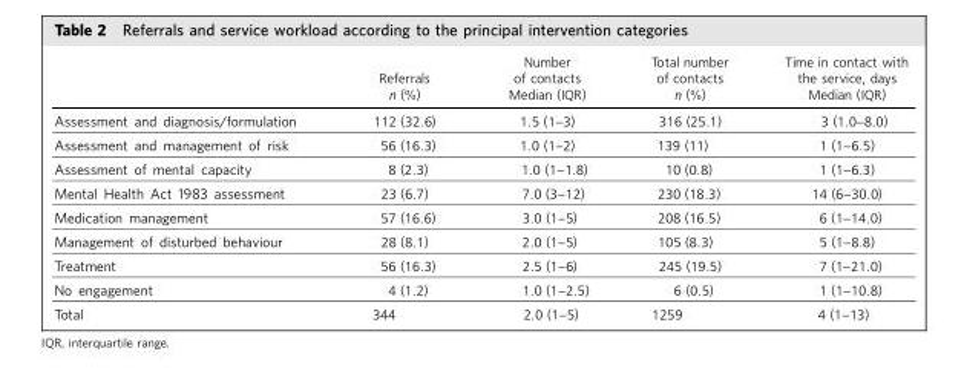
<table><thead><tr><td></td><td>Referrals n (%)</td><td>Number of contacts Median (IQR)</td><td>Total number of contacts n (%)</td><td>Time in contact with the service, days Median (IQR)</td></tr></thead><tbody><tr><td>Assessment and diagnosis/formulation</td><td>112 (32.6)</td><td>1.5 (1-3)</td><td>316 (25.1)</td><td>3 (1.0-8.0)</td></tr><tr><td>Assessment and management of risk</td><td>56 (16.3)</td><td>1.0 (1-2)</td><td>139 (11)</td><td>1 (1-6.5)</td></tr><tr><td>Assessment of mental capacity</td><td>8 (2.3)</td><td>1.0 (1-1.8)</td><td>10 (0.8)</td><td>1 (1-6.3)</td></tr><tr><td>Mental Health Act 1983 assessment</td><td>23 (6.7)</td><td>7.0 (3-12)</td><td>230 (18.3)</td><td>14 (6-30.0)</td></tr><tr><td>Medication management</td><td>57 (16.6)</td><td>3.0 (1-5)</td><td>208 (16.5)</td><td>6 (1-14.0)</td></tr><tr><td>Management of disturbed behaviour</td><td>28 (8.1)</td><td>2.0 (1-5)</td><td>105 (8.3)</td><td>5 (1-8.8)</td></tr><tr><td>Treatment</td><td>56 (16.3)</td><td>2.5 (1-6)</td><td>245 (19.5)</td><td>7 (1-21.0)</td></tr><tr><td>No engagement</td><td>4 (1.2)</td><td>1.0 (1-2.5)</td><td>6 (0.5)</td><td>1 (1-10.8)</td></tr><tr><td>Total</td><td>344</td><td>2.0 (1-5)</td><td>1259</td><td>4 (1-13)</td></tr></tbody></table>